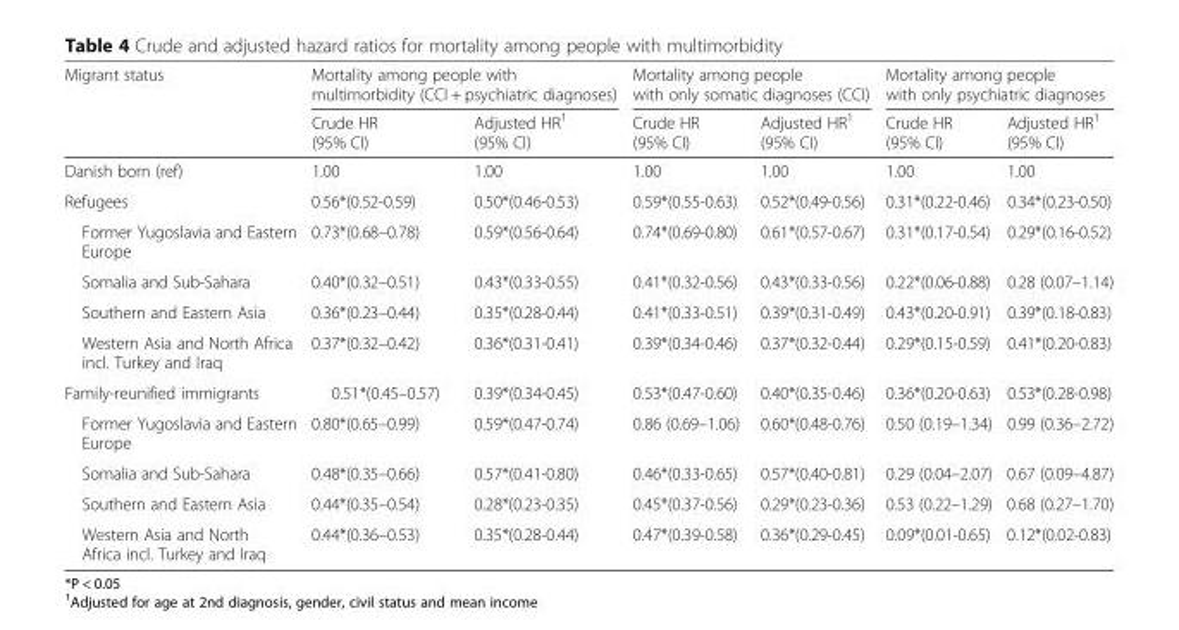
<table><thead><tr><td rowspan="2">Migrant status</td><td colspan="2">Mortality among people with multimorbidity (CCI + psychiatric diagnoses)</td><td colspan="2">Mortality among people with only somatic diagnoses (CCI)</td><td colspan="2">Mortality among people with only psychiatric diagnoses</td></tr><tr><td>Crude HR (95% CI)</td><td>Adjusted HR<sup>1</sup> (95% CI)</td><td>Crude HR (95% CI)</td><td>Adjusted HR<sup>1</sup> (95% CI)</td><td>Crude HR (95% CI)</td><td>Adjusted HR<sup>1</sup> (95% CI)</td></tr></thead><tbody><tr><td>Danish born (ref)</td><td>1.00</td><td>1.00</td><td>1.00</td><td>1.00</td><td>1.00</td><td>1.00</td></tr><tr><td>Refugees</td><td>0.56*(0.52-0.59)</td><td>0.50*(0.46-0.53)</td><td>0.59*(0.55-0.63)</td><td>0.52*(0.49-0.56)</td><td>0.31*(0.22-0.46)</td><td>0.34*(0.23-0.50)</td></tr><tr><td>Former Yugoslavia and Eastern Europe</td><td>0.73*(0.68–0.78)</td><td>0.59*(0.56-0.64)</td><td>0.74*(0.69-0.80)</td><td>0.61*(0.57-0.67)</td><td>0.31*(0.17-0.54)</td><td>0.29*(0.16-0.52)</td></tr><tr><td>Somalia and Sub-Sahara</td><td>0.40*(0.32–0.51)</td><td>0.43*(0.33-0.55)</td><td>0.41*(0.32-0.56)</td><td>0.43*(0.33-0.56)</td><td>0.22*(0.06-0.88)</td><td>0.28 (0.07–1.14)</td></tr><tr><td>Southern and Eastern Asia</td><td>0.36*(0.23–0.44)</td><td>0.35*(0.28-0.44)</td><td>0.41*(0.33-0.51)</td><td>0.39*(0.31-0.49)</td><td>0.43*(0.20-0.91)</td><td>0.39*(0.18-0.83)</td></tr><tr><td>Western Asia and North Africa incl. Turkey and Iraq</td><td>0.37*(0.32–0.42)</td><td>0.36*(0.31-0.41)</td><td>0.39*(0.34-0.46)</td><td>0.37*(0.32-0.44)</td><td>0.29*(0.15-0.59)</td><td>0.41*(0.20-0.83)</td></tr><tr><td>Family-reunified immigrants</td><td>0.51*(0.45–0.57)</td><td>0.39*(0.34-0.45)</td><td>0.53*(0.47-0.60)</td><td>0.40*(0.35-0.46)</td><td>0.36*(0.20-0.63)</td><td>0.53*(0.28-0.98)</td></tr><tr><td>Former Yugoslavia and Eastern Europe</td><td>0.80*(0.65–0.99)</td><td>0.59*(0.47-0.74)</td><td>0.86 (0.69–1.06)</td><td>0.60*(0.48-0.76)</td><td>0.50 (0.19–1.34)</td><td>0.99 (0.36–2.72)</td></tr><tr><td>Somalia and Sub-Sahara</td><td>0.48*(0.35–0.66)</td><td>0.57*(0.41-0.80)</td><td>0.46*(0.33-0.65)</td><td>0.57*(0.40-0.81)</td><td>0.29 (0.04–2.07)</td><td>0.67 (0.09–4.87)</td></tr><tr><td>Southern and Eastern Asia</td><td>0.44*(0.35–0.54)</td><td>0.28*(0.23-0.35)</td><td>0.45*(0.37-0.56)</td><td>0.29*(0.23-0.36)</td><td>0.53 (0.22–1.29)</td><td>0.68 (0.27–1.70)</td></tr><tr><td>Western Asia and North Africa incl. Turkey and Iraq</td><td>0.44*(0.36–0.53)</td><td>0.35*(0.28-0.44)</td><td>0.47*(0.39-0.58)</td><td>0.36*(0.29-0.45)</td><td>0.09*(0.01-0.65)</td><td>0.12*(0.02-0.83)</td></tr></tbody></table>